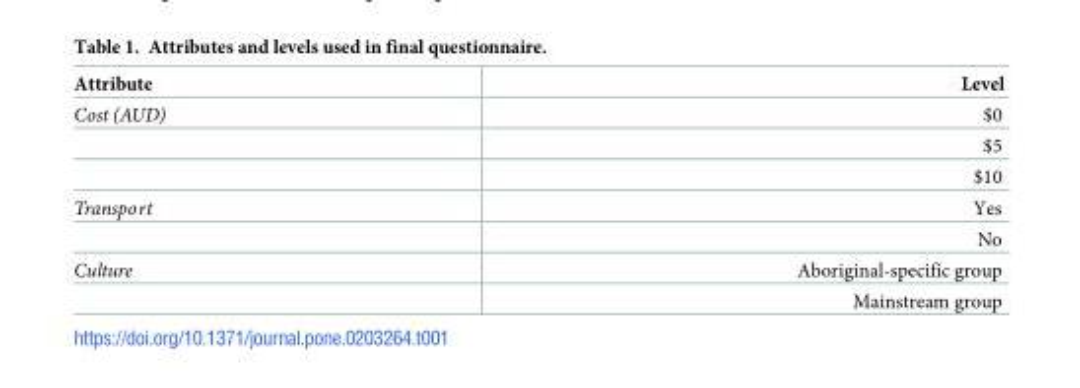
<table><thead><tr><td>Attribute</td><td>Level</td></tr></thead><tbody><tr><td rowspan="3">Cost (AUD)</td><td>$0</td></tr><tr><td>$5</td></tr><tr><td>$10</td></tr><tr><td rowspan="2">Transport</td><td>Yes</td></tr><tr><td>No</td></tr><tr><td rowspan="2">Culture</td><td>Aboriginal-specific group</td></tr><tr><td>Mainstream group</td></tr></tbody></table>